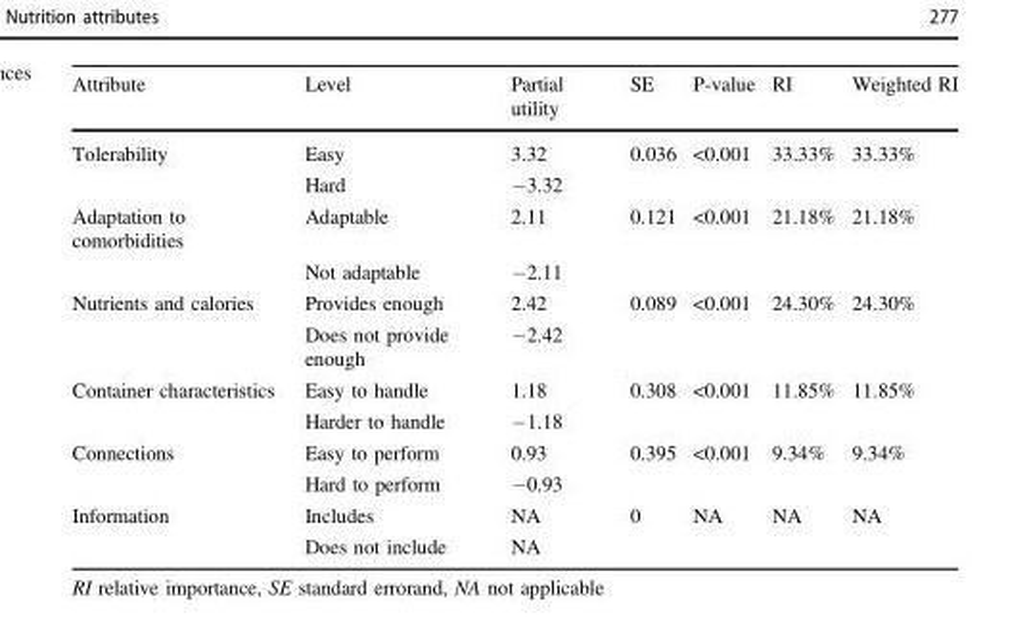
<table><thead><tr><td>Attribute</td><td>Level</td><td>Partial utility</td><td>SE</td><td>P-value</td><td>RI</td><td>Weighted RI</td></tr></thead><tbody><tr><td rowspan="2">Tolerability</td><td>Easy</td><td>3.32</td><td>0.036</td><td>&lt;0.001</td><td>33.33%</td><td>33.33%</td></tr><tr><td>Hard</td><td>−3.32</td><td></td><td></td><td></td><td></td></tr><tr><td rowspan="2">Adaptation to comorbidities</td><td>Adaptable</td><td>2.11</td><td>0.121</td><td>&lt;0.001</td><td>21.18%</td><td>21.18%</td></tr><tr><td>Not adaptable</td><td>−2.11</td><td></td><td></td><td></td><td></td></tr><tr><td rowspan="2">Nutrients and calories</td><td>Provides enough</td><td>2.42</td><td>0.089</td><td>&lt;0.001</td><td>24.30%</td><td>24.30%</td></tr><tr><td>Does not provide enough</td><td>−2.42</td><td></td><td></td><td></td><td></td></tr><tr><td rowspan="2">Container characteristics</td><td>Easy to handle</td><td>1.18</td><td>0.308</td><td>&lt;0.001</td><td>11.85%</td><td>11.85%</td></tr><tr><td>Harder to handle</td><td>−1.18</td><td></td><td></td><td></td><td></td></tr><tr><td rowspan="2">Connections</td><td>Easy to perform</td><td>0.93</td><td>0.395</td><td>&lt;0.001</td><td>9.34%</td><td>9.34%</td></tr><tr><td>Hard to perform</td><td>−0.93</td><td></td><td></td><td></td><td></td></tr><tr><td rowspan="2">Information</td><td>Includes</td><td>NA</td><td>0</td><td>NA</td><td>NA</td><td>NA</td></tr><tr><td>Does not include</td><td>NA</td><td></td><td></td><td></td><td></td></tr></tbody></table>